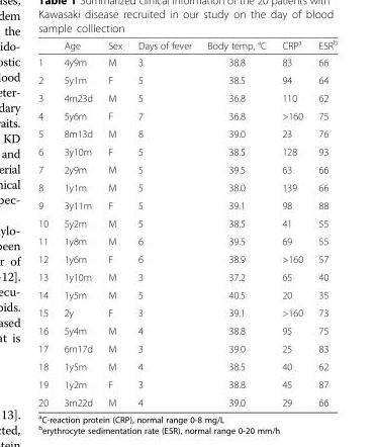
<table><thead><tr><td></td><td>Age</td><td>Sex</td><td>Days of fever</td><td>Body temp, °C</td><td>CRP<sup>a</sup></td><td>ESR<sup>b</sup></td></tr></thead><tbody><tr><td>1</td><td>4y9m</td><td>M</td><td>3</td><td>38.8</td><td>83</td><td>66</td></tr><tr><td>2</td><td>5y1m</td><td>F</td><td>5</td><td>38.5</td><td>94</td><td>64</td></tr><tr><td>3</td><td>4m23d</td><td>M</td><td>5</td><td>36.8</td><td>110</td><td>62</td></tr><tr><td>4</td><td>5y6m</td><td>F</td><td>7</td><td>36.8</td><td>&gt;160</td><td>75</td></tr><tr><td>5</td><td>8m13d</td><td>M</td><td>8</td><td>39.0</td><td>23</td><td>76</td></tr><tr><td>6</td><td>3y10m</td><td>F</td><td>5</td><td>38.5</td><td>128</td><td>93</td></tr><tr><td>7</td><td>2y9m</td><td>M</td><td>5</td><td>39.5</td><td>63</td><td>66</td></tr><tr><td>8</td><td>1y1m</td><td>M</td><td>5</td><td>38.0</td><td>139</td><td>66</td></tr><tr><td>9</td><td>3y11m</td><td>F</td><td>5</td><td>39.1</td><td>98</td><td>88</td></tr><tr><td>10</td><td>5y2m</td><td>M</td><td>5</td><td>38.5</td><td>41</td><td>55</td></tr><tr><td>11</td><td>1y8m</td><td>M</td><td>6</td><td>39.5</td><td>69</td><td>55</td></tr><tr><td>12</td><td>1y6m</td><td>F</td><td>6</td><td>38.9</td><td>&gt;160</td><td>57</td></tr><tr><td>13</td><td>1y10m</td><td>M</td><td>3</td><td>37.2</td><td>65</td><td>40</td></tr><tr><td>14</td><td>1y5m</td><td>M</td><td>5</td><td>40.5</td><td>20</td><td>35</td></tr><tr><td>15</td><td>2y</td><td>F</td><td>3</td><td>39.1</td><td>&gt;160</td><td>73</td></tr><tr><td>16</td><td>5y4m</td><td>M</td><td>4</td><td>38.8</td><td>95</td><td>75</td></tr><tr><td>17</td><td>6m17d</td><td>M</td><td>3</td><td>39.0</td><td>25</td><td>83</td></tr><tr><td>18</td><td>1y5m</td><td>M</td><td>4</td><td>38.5</td><td>40</td><td>62</td></tr><tr><td>19</td><td>1y2m</td><td>F</td><td>3</td><td>38.8</td><td>45</td><td>87</td></tr><tr><td>20</td><td>3m22d</td><td>M</td><td>4</td><td>39.0</td><td>29</td><td>66</td></tr></tbody></table>